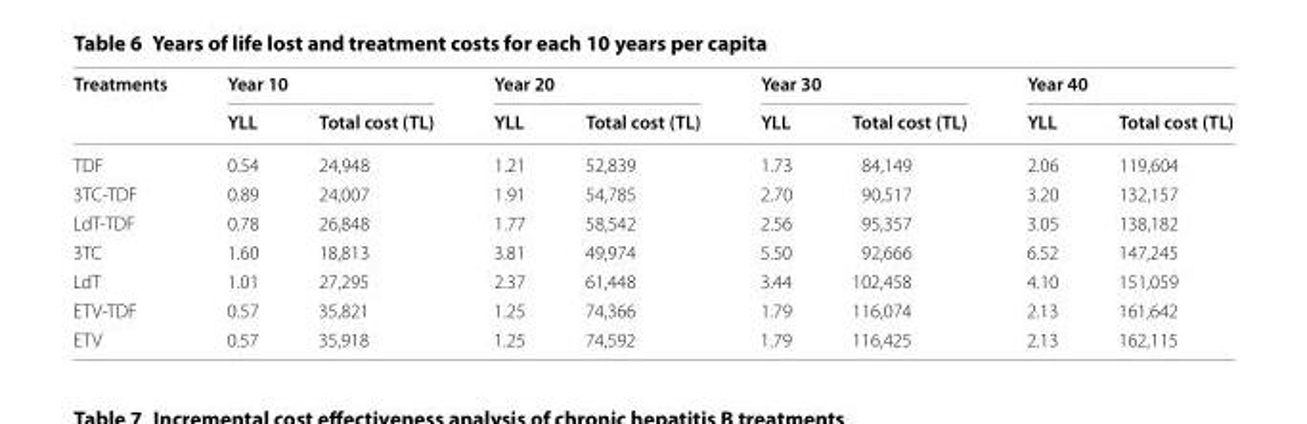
<table><thead><tr><td rowspan="2">Treatments</td><td colspan="2">Year 10</td><td colspan="2">Year 20</td><td colspan="2">Year 30</td><td colspan="2">Year 40</td></tr><tr><td>YLL</td><td>Total cost (TL)</td><td>YLL</td><td>Total cost (TL)</td><td>YLL</td><td>Total cost (TL)</td><td>YLL</td><td>Total cost (TL)</td></tr></thead><tbody><tr><td>TDF</td><td>0.54</td><td>24,948</td><td>1.21</td><td>52,839</td><td>1.73</td><td>84,149</td><td>2.06</td><td>119,604</td></tr><tr><td>3TC-TDF</td><td>0.89</td><td>24,007</td><td>1.91</td><td>54,785</td><td>2.70</td><td>90,517</td><td>3.20</td><td>132,157</td></tr><tr><td>LdT-TDF</td><td>0.78</td><td>26,848</td><td>1.77</td><td>58,542</td><td>2.56</td><td>95,357</td><td>3.05</td><td>138,182</td></tr><tr><td>3TC</td><td>1.60</td><td>18,813</td><td>3.81</td><td>49,974</td><td>5.50</td><td>92,666</td><td>6.52</td><td>147,245</td></tr><tr><td>LdT</td><td>1.01</td><td>27,295</td><td>2.37</td><td>61,448</td><td>3.44</td><td>102,458</td><td>4.10</td><td>151,059</td></tr><tr><td>ETV-TDF</td><td>0.57</td><td>35,821</td><td>1.25</td><td>74,366</td><td>1.79</td><td>116,074</td><td>2.13</td><td>161,642</td></tr><tr><td>ETV</td><td>0.57</td><td>35,918</td><td>1.25</td><td>74,592</td><td>1.79</td><td>116,425</td><td>2.13</td><td>162,115</td></tr></tbody></table>